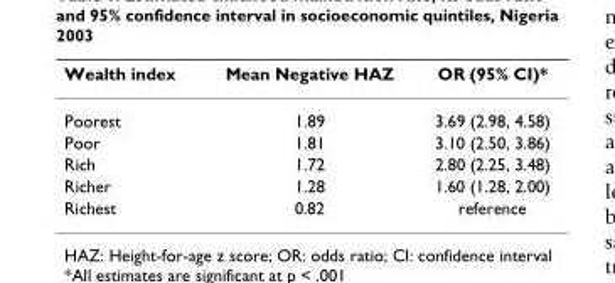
<table><thead><tr><td>Wealth index</td><td>Mean Negative HAZ</td><td>OR (95% CI)*</td></tr></thead><tbody><tr><td>Poorest</td><td>1.89</td><td>3.69 (2.98, 4.58)</td></tr><tr><td>Poor</td><td>1.81</td><td>3.10 (2.50, 3.86)</td></tr><tr><td>Rich</td><td>1.72</td><td>2.80 (2.25, 3.48)</td></tr><tr><td>Richer</td><td>1.28</td><td>1.60 (1.28, 2.00)</td></tr><tr><td>Richest</td><td>0.82</td><td>reference</td></tr></tbody></table>